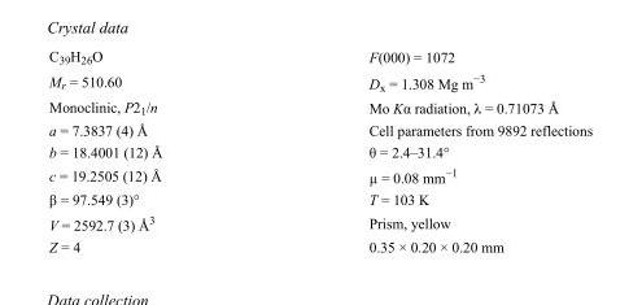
<table><tbody><tr><td>C<sub>39</sub>H<sub>26</sub>O</td><td>F(000) = 1072</td></tr><tr><td>M<sub>r</sub> = 510.60</td><td>D<sub>x</sub> = 1.308 Mg m<sup>−3</sup></td></tr><tr><td>Monoclinic, P2<sub>1</sub>/n</td><td>Mo Kα radiation, λ = 0.71073 Å</td></tr><tr><td>a = 7.3837 (4) Å</td><td>Cell parameters from 9892 reflections</td></tr><tr><td>b = 18.4001 (12) Å</td><td>θ = 2.4–31.4°</td></tr><tr><td>c = 19.2505 (12) Å</td><td>µ = 0.08 mm<sup>−1</sup></td></tr><tr><td>β = 97.549 (3)°</td><td>T = 103 K</td></tr><tr><td>V = 2592.7 (3) Å<sup>3</sup></td><td>Prism, yellow</td></tr><tr><td>Z = 4</td><td>0.35 × 0.20 × 0.20 mm</td></tr></tbody></table>